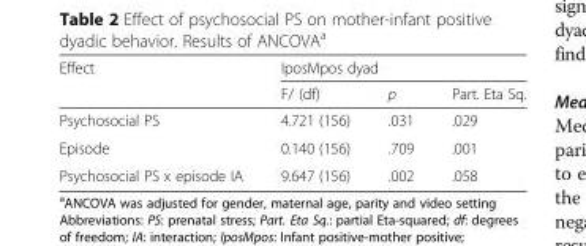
<table><thead><tr><td rowspan="2">Effect</td><td colspan="3">IposMpos dyad</td></tr><tr><td>F/ (df)</td><td>p</td><td>Part. Eta Sq.</td></tr></thead><tbody><tr><td>Psychosocial PS</td><td>4.721 (156)</td><td>.031</td><td>.029</td></tr><tr><td>Episode</td><td>0.140 (156)</td><td>.709</td><td>.001</td></tr><tr><td>Psychosocial PS x episode IA</td><td>9.647 (156)</td><td>.002</td><td>.058</td></tr></tbody></table>